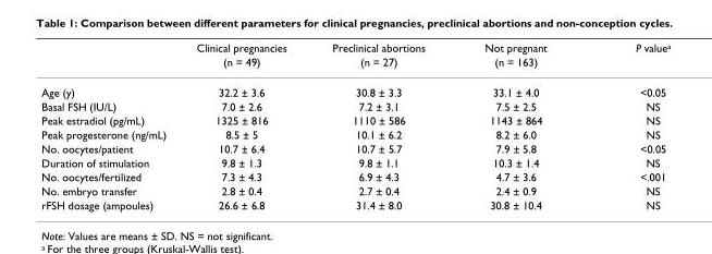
<table><thead><tr><td rowspan="2"></td><td rowspan="2">Clinical pregnancies (n = 49)</td><td rowspan="2">Preclinical abortions (n = 27)</td><td rowspan="2">Not pregnant (n = 163)</td><td rowspan="2">P value<sup>a</sup></td></tr><tr></tr></thead><tbody><tr><td>Age (y)</td><td>32.2 ± 3.6</td><td>30.8 ± 3.3</td><td>33.1 ± 4.0</td><td>&lt;0.05</td></tr><tr><td>Basal FSH (IU/L)</td><td>7.0 ± 2.6</td><td>7.2 ± 3.1</td><td>7.5 ± 2.5</td><td>NS</td></tr><tr><td>Peak estradiol (pg/mL)</td><td>1325 ± 816</td><td>1110 ± 586</td><td>1143 ± 864</td><td>NS</td></tr><tr><td>Peak progesterone (ng/mL)</td><td>8.5 ± 5</td><td>10.1 ± 6.2</td><td>8.2 ± 6.0</td><td>NS</td></tr><tr><td>No. oocytes/patient</td><td>10.7 ± 6.4</td><td>10.7 ± 5.7</td><td>7.9 ± 5.8</td><td>&lt;0.05</td></tr><tr><td>Duration of stimulation</td><td>9.8 ± 1.3</td><td>9.8 ± 1.1</td><td>10.3 ± 1.4</td><td>NS</td></tr><tr><td>No. oocytes/fertilized</td><td>7.3 ± 4.3</td><td>6.9 ± 4.3</td><td>4.7 ± 3.6</td><td>&lt;.001</td></tr><tr><td>No. embryo transfer</td><td>2.8 ± 0.4</td><td>2.7 ± 0.4</td><td>2.4 ± 0.9</td><td>NS</td></tr><tr><td>rFSH dosage (ampoules)</td><td>26.6 ± 6.8</td><td>31.4 ± 8.0</td><td>30.8 ± 10.4</td><td>NS</td></tr></tbody></table>